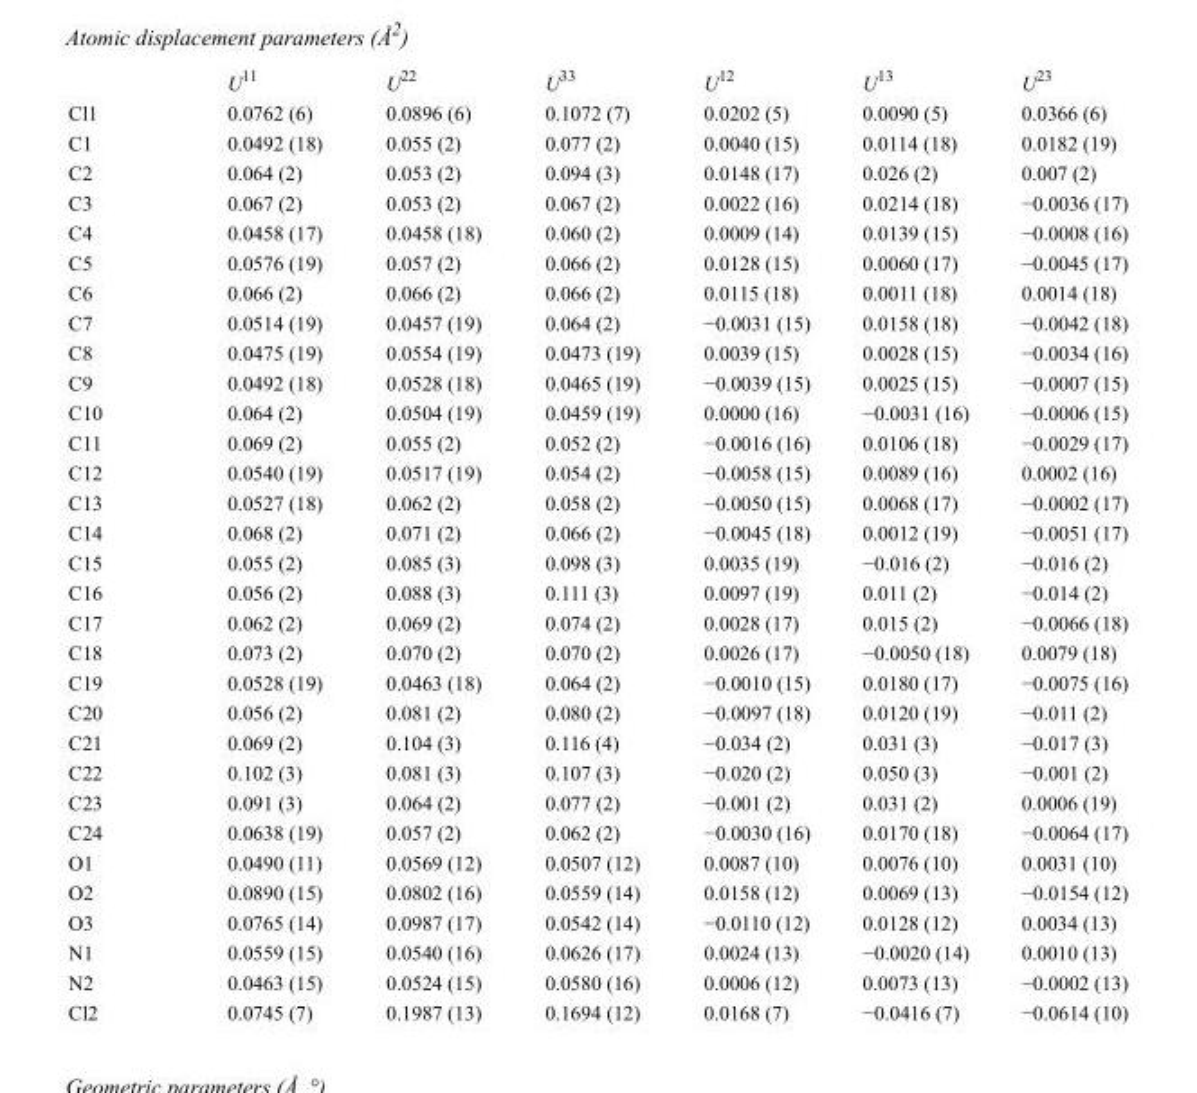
<table><thead><tr><td></td><td>U<sup>11</sup></td><td>U<sup>22</sup></td><td>U<sup>33</sup></td><td>U<sup>12</sup></td><td>U<sup>13</sup></td><td>U<sup>23</sup></td></tr></thead><tbody><tr><td>Cl1</td><td>0.0762 (6)</td><td>0.0896 (6)</td><td>0.1072 (7)</td><td>0.0202 (5)</td><td>0.0090 (5)</td><td>0.0366 (6)</td></tr><tr><td>C1</td><td>0.0492 (18)</td><td>0.055 (2)</td><td>0.077 (2)</td><td>0.0040 (15)</td><td>0.0114 (18)</td><td>0.0182 (19)</td></tr><tr><td>C2</td><td>0.064 (2)</td><td>0.053 (2)</td><td>0.094 (3)</td><td>0.0148 (17)</td><td>0.026 (2)</td><td>0.007 (2)</td></tr><tr><td>C3</td><td>0.067 (2)</td><td>0.053 (2)</td><td>0.067 (2)</td><td>0.0022 (16)</td><td>0.0214 (18)</td><td>−0.0036 (17)</td></tr><tr><td>C4</td><td>0.0458 (17)</td><td>0.0458 (18)</td><td>0.060 (2)</td><td>0.0009 (14)</td><td>0.0139 (15)</td><td>−0.0008 (16)</td></tr><tr><td>C5</td><td>0.0576 (19)</td><td>0.057 (2)</td><td>0.066 (2)</td><td>0.0128 (15)</td><td>0.0060 (17)</td><td>−0.0045 (17)</td></tr><tr><td>C6</td><td>0.066 (2)</td><td>0.066 (2)</td><td>0.066 (2)</td><td>0.0115 (18)</td><td>0.0011 (18)</td><td>0.0014 (18)</td></tr><tr><td>C7</td><td>0.0514 (19)</td><td>0.0457 (19)</td><td>0.064 (2)</td><td>−0.0031 (15)</td><td>0.0158 (18)</td><td>−0.0042 (18)</td></tr><tr><td>C8</td><td>0.0475 (19)</td><td>0.0554 (19)</td><td>0.0473 (19)</td><td>0.0039 (15)</td><td>0.0028 (15)</td><td>−0.0034 (16)</td></tr><tr><td>C9</td><td>0.0492 (18)</td><td>0.0528 (18)</td><td>0.0465 (19)</td><td>−0.0039 (15)</td><td>0.0025 (15)</td><td>−0.0007 (15)</td></tr><tr><td>C10</td><td>0.064 (2)</td><td>0.0504 (19)</td><td>0.0459 (19)</td><td>0.0000 (16)</td><td>−0.0031 (16)</td><td>−0.0006 (15)</td></tr><tr><td>C11</td><td>0.069 (2)</td><td>0.055 (2)</td><td>0.052 (2)</td><td>−0.0016 (16)</td><td>0.0106 (18)</td><td>−0.0029 (17)</td></tr><tr><td>C12</td><td>0.0540 (19)</td><td>0.0517 (19)</td><td>0.054 (2)</td><td>−0.0058 (15)</td><td>0.0089 (16)</td><td>0.0002 (16)</td></tr><tr><td>C13</td><td>0.0527 (18)</td><td>0.062 (2)</td><td>0.058 (2)</td><td>−0.0050 (15)</td><td>0.0068 (17)</td><td>−0.0002 (17)</td></tr><tr><td>C14</td><td>0.068 (2)</td><td>0.071 (2)</td><td>0.066 (2)</td><td>−0.0045 (18)</td><td>0.0012 (19)</td><td>−0.0051 (17)</td></tr><tr><td>C15</td><td>0.055 (2)</td><td>0.085 (3)</td><td>0.098 (3)</td><td>0.0035 (19)</td><td>−0.016 (2)</td><td>−0.016 (2)</td></tr><tr><td>C16</td><td>0.056 (2)</td><td>0.088 (3)</td><td>0.111 (3)</td><td>0.0097 (19)</td><td>0.011 (2)</td><td>−0.014 (2)</td></tr><tr><td>C17</td><td>0.062 (2)</td><td>0.069 (2)</td><td>0.074 (2)</td><td>0.0028 (17)</td><td>0.015 (2)</td><td>−0.0066 (18)</td></tr><tr><td>C18</td><td>0.073 (2)</td><td>0.070 (2)</td><td>0.070 (2)</td><td>0.0026 (17)</td><td>−0.0050 (18)</td><td>0.0079 (18)</td></tr><tr><td>C19</td><td>0.0528 (19)</td><td>0.0463 (18)</td><td>0.064 (2)</td><td>−0.0010 (15)</td><td>0.0180 (17)</td><td>−0.0075 (16)</td></tr><tr><td>C20</td><td>0.056 (2)</td><td>0.081 (2)</td><td>0.080 (2)</td><td>−0.0097 (18)</td><td>0.0120 (19)</td><td>−0.011 (2)</td></tr><tr><td>C21</td><td>0.069 (2)</td><td>0.104 (3)</td><td>0.116 (4)</td><td>−0.034 (2)</td><td>0.031 (3)</td><td>−0.017 (3)</td></tr><tr><td>C22</td><td>0.102 (3)</td><td>0.081 (3)</td><td>0.107 (3)</td><td>−0.020 (2)</td><td>0.050 (3)</td><td>−0.001 (2)</td></tr><tr><td>C23</td><td>0.091 (3)</td><td>0.064 (2)</td><td>0.077 (2)</td><td>−0.001 (2)</td><td>0.031 (2)</td><td>0.0006 (19)</td></tr><tr><td>C24</td><td>0.0638 (19)</td><td>0.057 (2)</td><td>0.062 (2)</td><td>−0.0030 (16)</td><td>0.0170 (18)</td><td>−0.0064 (17)</td></tr><tr><td>O1</td><td>0.0490 (11)</td><td>0.0569 (12)</td><td>0.0507 (12)</td><td>0.0087 (10)</td><td>0.0076 (10)</td><td>0.0031 (10)</td></tr><tr><td>O2</td><td>0.0890 (15)</td><td>0.0802 (16)</td><td>0.0559 (14)</td><td>0.0158 (12)</td><td>0.0069 (13)</td><td>−0.0154 (12)</td></tr><tr><td>O3</td><td>0.0765 (14)</td><td>0.0987 (17)</td><td>0.0542 (14)</td><td>−0.0110 (12)</td><td>0.0128 (12)</td><td>0.0034 (13)</td></tr><tr><td>N1</td><td>0.0559 (15)</td><td>0.0540 (16)</td><td>0.0626 (17)</td><td>0.0024 (13)</td><td>−0.0020 (14)</td><td>0.0010 (13)</td></tr><tr><td>N2</td><td>0.0463 (15)</td><td>0.0524 (15)</td><td>0.0580 (16)</td><td>0.0006 (12)</td><td>0.0073 (13)</td><td>−0.0002 (13)</td></tr><tr><td>Cl2</td><td>0.0745 (7)</td><td>0.1987 (13)</td><td>0.1694 (12)</td><td>0.0168 (7)</td><td>−0.0416 (7)</td><td>−0.0614 (10)</td></tr></tbody></table>